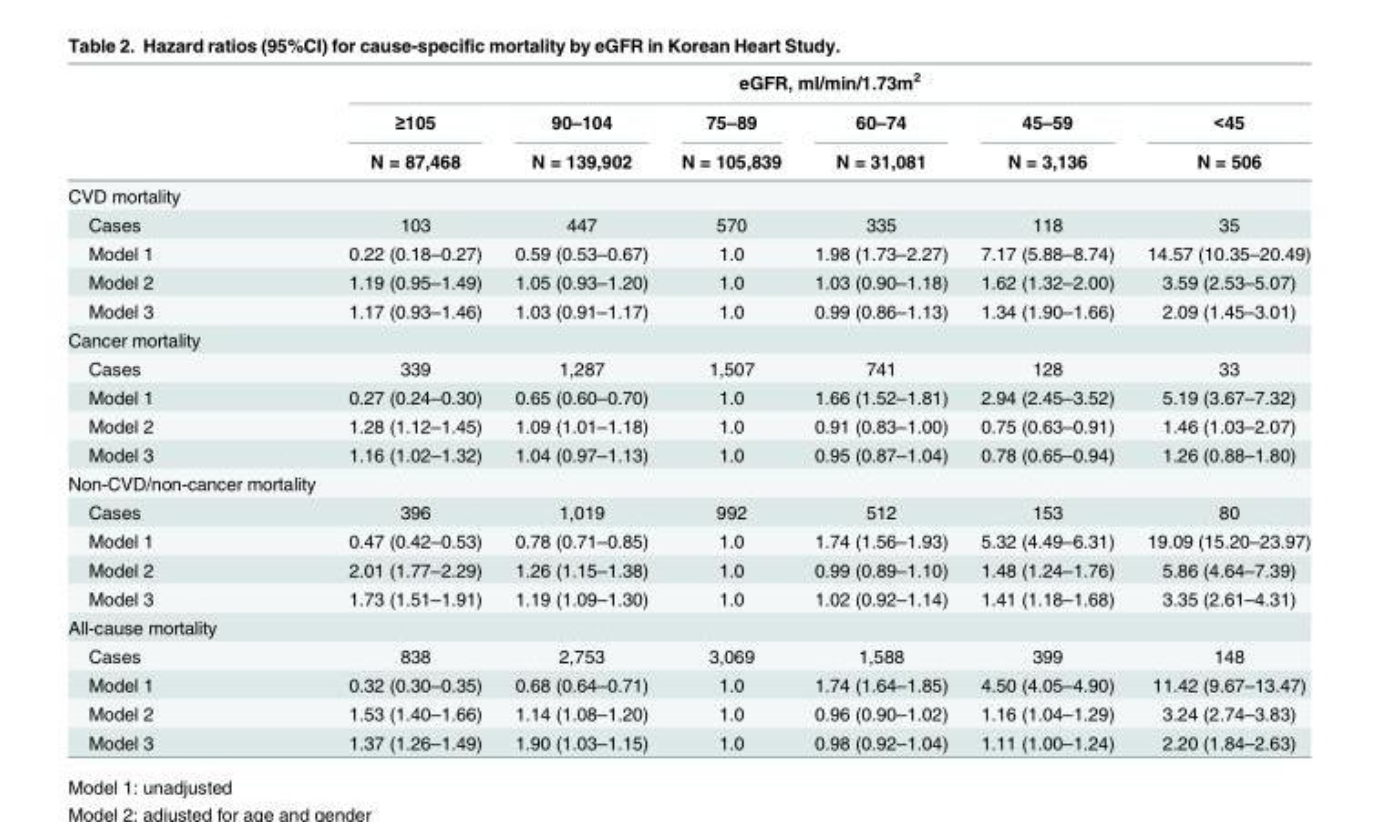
<table><thead><tr><td rowspan="3"></td><td colspan="6">eGFR, ml/min/1.73m<sup>2</sup></td></tr><tr><td rowspan="2">≥105 N = 87,468</td><td rowspan="2">90–104 N = 139,902</td><td rowspan="2">75–89 N = 105,839</td><td rowspan="2">60–74 N = 31,081</td><td rowspan="2">45–59 N = 3,136</td><td rowspan="2">&lt;45 N = 506</td></tr><tr></tr></thead><tbody><tr><td colspan="7">CVD mortality</td></tr><tr><td>Cases</td><td>103</td><td>447</td><td>570</td><td>335</td><td>118</td><td>35</td></tr><tr><td>Model 1</td><td>0.22 (0.18–0.27)</td><td>0.59 (0.53–0.67)</td><td>1.0</td><td>1.98 (1.73–2.27)</td><td>7.17 (5.88–8.74)</td><td>14.57 (10.35–20.49)</td></tr><tr><td>Model 2</td><td>1.19 (0.95–1.49)</td><td>1.05 (0.93–1.20)</td><td>1.0</td><td>1.03 (0.90–1.18)</td><td>1.62 (1.32–2.00)</td><td>3.59 (2.53–5.07)</td></tr><tr><td>Model 3</td><td>1.17 (0.93–1.46)</td><td>1.03 (0.91–1.17)</td><td>1.0</td><td>0.99 (0.86–1.13)</td><td>1.34 (1.90–1.66)</td><td>2.09 (1.45–3.01)</td></tr><tr><td colspan="7">Cancer mortality</td></tr><tr><td>Cases</td><td>339</td><td>1,287</td><td>1,507</td><td>741</td><td>128</td><td>33</td></tr><tr><td>Model 1</td><td>0.27 (0.24–0.30)</td><td>0.65 (0.60–0.70)</td><td>1.0</td><td>1.66 (1.52–1.81)</td><td>2.94 (2.45–3.52)</td><td>5.19 (3.67–7.32)</td></tr><tr><td>Model 2</td><td>1.28 (1.12–1.45)</td><td>1.09 (1.01–1.18)</td><td>1.0</td><td>0.91 (0.83–1.00)</td><td>0.75 (0.63–0.91)</td><td>1.46 (1.03–2.07)</td></tr><tr><td>Model 3</td><td>1.16 (1.02–1.32)</td><td>1.04 (0.97–1.13)</td><td>1.0</td><td>0.95 (0.87–1.04)</td><td>0.78 (0.65–0.94)</td><td>1.26 (0.88–1.80)</td></tr><tr><td colspan="7">Non-CVD/non-cancer mortality</td></tr><tr><td>Cases</td><td>396</td><td>1,019</td><td>992</td><td>512</td><td>153</td><td>80</td></tr><tr><td>Model 1</td><td>0.47 (0.42–0.53)</td><td>0.78 (0.71–0.85)</td><td>1.0</td><td>1.74 (1.56–1.93)</td><td>5.32 (4.49–6.31)</td><td>19.09 (15.20–23.97)</td></tr><tr><td>Model 2</td><td>2.01 (1.77–2.29)</td><td>1.26 (1.15–1.38)</td><td>1.0</td><td>0.99 (0.89–1.10)</td><td>1.48 (1.24–1.76)</td><td>5.86 (4.64–7.39)</td></tr><tr><td>Model 3</td><td>1.73 (1.51–1.91)</td><td>1.19 (1.09–1.30)</td><td>1.0</td><td>1.02 (0.92–1.14)</td><td>1.41 (1.18–1.68)</td><td>3.35 (2.61–4.31)</td></tr><tr><td colspan="7">All-cause mortality</td></tr><tr><td>Cases</td><td>838</td><td>2,753</td><td>3,069</td><td>1,588</td><td>399</td><td>148</td></tr><tr><td>Model 1</td><td>0.32 (0.30–0.35)</td><td>0.68 (0.64–0.71)</td><td>1.0</td><td>1.74 (1.64–1.85)</td><td>4.50 (4.05–4.90)</td><td>11.42 (9.67–13.47)</td></tr><tr><td>Model 2</td><td>1.53 (1.40–1.66)</td><td>1.14 (1.08–1.20)</td><td>1.0</td><td>0.96 (0.90–1.02)</td><td>1.16 (1.04–1.29)</td><td>3.24 (2.74–3.83)</td></tr><tr><td>Model 3</td><td>1.37 (1.26–1.49)</td><td>1.90 (1.03–1.15)</td><td>1.0</td><td>0.98 (0.92–1.04)</td><td>1.11 (1.00–1.24)</td><td>2.20 (1.84–2.63)</td></tr></tbody></table>